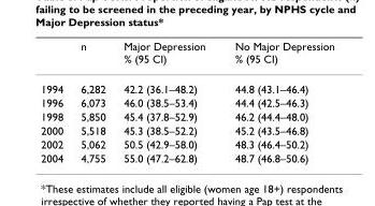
<table><thead><tr><td></td><td>n</td><td>Major Depression % (95 CI)</td><td>No Major Depression % (95 CI)</td></tr></thead><tbody><tr><td>1994</td><td>6,282</td><td>42.2 (36.1–48.2)</td><td>44.8 (43.1–46.4)</td></tr><tr><td>1996</td><td>6,073</td><td>46.0 (38.5–53.4)</td><td>44.4 (42.5–46.3)</td></tr><tr><td>1998</td><td>5,850</td><td>45.4 (37.8–52.9)</td><td>46.2 (44.4–48.0)</td></tr><tr><td>2000</td><td>5,518</td><td>45.3 (38.5–52.2)</td><td>45.2 (43.5–46.8)</td></tr><tr><td>2002</td><td>5,062</td><td>50.5 (42.9–58.0)</td><td>48.3 (46.4–50.2)</td></tr><tr><td>2004</td><td>4,755</td><td>55.0 (47.2–62.8)</td><td>48.7 (46.8–50.6)</td></tr></tbody></table>